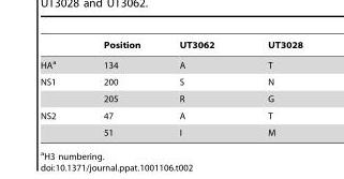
<table><thead><tr><td></td><td>Position</td><td>UT3062</td><td>UT3028</td></tr></thead><tbody><tr><td>HA<sup>a</sup></td><td>134</td><td>A</td><td>T</td></tr><tr><td rowspan="2">NS1</td><td>200</td><td>S</td><td>N</td></tr><tr><td>205</td><td>R</td><td>G</td></tr><tr><td rowspan="2">NS2</td><td>47</td><td>A</td><td>T</td></tr><tr><td>51</td><td>I</td><td>M</td></tr></tbody></table>